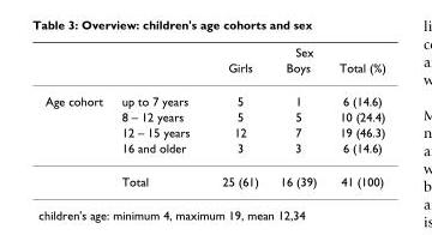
<table><thead><tr><td rowspan="2"></td><td rowspan="2"></td><td colspan="3">Sex</td></tr><tr><td>Girls</td><td>Boys</td><td>Total (%)</td></tr></thead><tbody><tr><td rowspan="5">Age cohort</td><td>up to 7 years</td><td>5</td><td>1</td><td>6 (14.6)</td></tr><tr><td>8 – 12 years</td><td>5</td><td>5</td><td>10 (24.4)</td></tr><tr><td>12 – 15 years</td><td>12</td><td>7</td><td>19 (46.3)</td></tr><tr><td>16 and older</td><td>3</td><td>3</td><td>6 (14.6)</td></tr><tr><td>Total</td><td>25 (61)</td><td>16 (39)</td><td>41 (100)</td></tr></tbody></table>